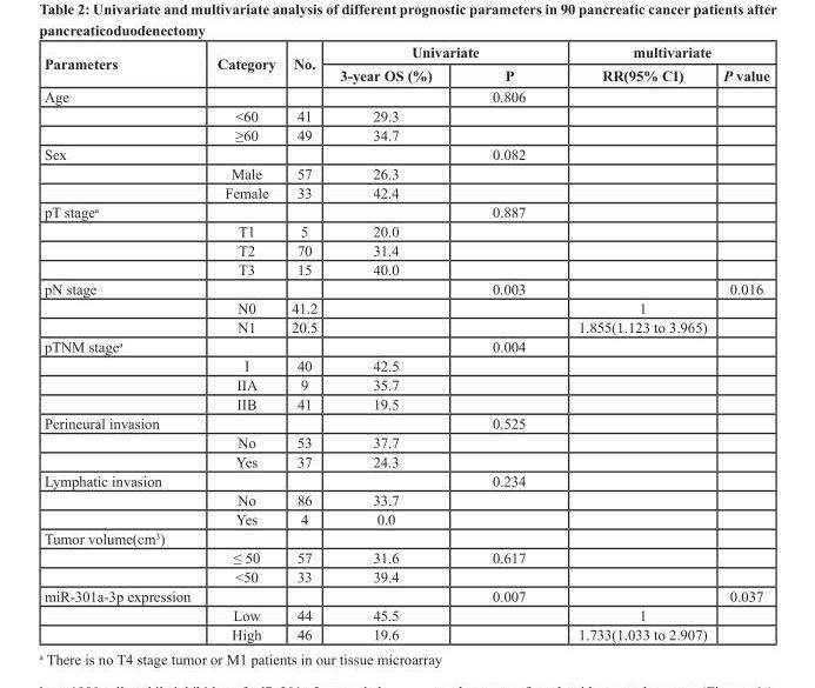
<table><thead><tr><td rowspan="2">Parameters</td><td rowspan="2">Category</td><td rowspan="2">No.</td><td colspan="2">Univariate</td><td colspan="2">multivariate</td></tr><tr><td>3-year OS (%)</td><td>P</td><td>RR(95% CI)</td><td>P value</td></tr></thead><tbody><tr><td rowspan="3">Age</td><td></td><td></td><td></td><td>0.806</td><td></td><td></td></tr><tr><td>&lt;60</td><td>41</td><td>29.3</td><td></td><td></td><td></td></tr><tr><td>≥60</td><td>49</td><td>34.7</td><td></td><td></td><td></td></tr><tr><td rowspan="3">Sex</td><td></td><td></td><td></td><td>0.082</td><td></td><td></td></tr><tr><td>Male</td><td>57</td><td>26.3</td><td></td><td></td><td></td></tr><tr><td>Female</td><td>33</td><td>42.4</td><td></td><td></td><td></td></tr><tr><td rowspan="4">pT stage<sup>a</sup></td><td></td><td></td><td></td><td>0.887</td><td></td><td></td></tr><tr><td>T1</td><td>5</td><td>20.0</td><td></td><td></td><td></td></tr><tr><td>T2</td><td>70</td><td>31.4</td><td></td><td></td><td></td></tr><tr><td>T3</td><td>15</td><td>40.0</td><td></td><td></td><td></td></tr><tr><td rowspan="3">pN stage</td><td></td><td></td><td></td><td>0.003</td><td></td><td>0.016</td></tr><tr><td>N0</td><td>41.2</td><td></td><td></td><td>1</td><td></td></tr><tr><td>N1</td><td>20.5</td><td></td><td></td><td>1.855(1.123 to 3.965)</td><td></td></tr><tr><td rowspan="4">pTNM stage<sup>a</sup></td><td></td><td></td><td></td><td>0.004</td><td></td><td></td></tr><tr><td>I</td><td>40</td><td>42.5</td><td></td><td></td><td></td></tr><tr><td>IIA</td><td>9</td><td>35.7</td><td></td><td></td><td></td></tr><tr><td>IIB</td><td>41</td><td>19.5</td><td></td><td></td><td></td></tr><tr><td rowspan="3">Perineural invasion</td><td></td><td></td><td></td><td>0.525</td><td></td><td></td></tr><tr><td>No</td><td>53</td><td>37.7</td><td></td><td></td><td></td></tr><tr><td>Yes</td><td>37</td><td>24.3</td><td></td><td></td><td></td></tr><tr><td rowspan="3">Lymphatic invasion</td><td></td><td></td><td></td><td>0.234</td><td></td><td></td></tr><tr><td>No</td><td>86</td><td>33.7</td><td></td><td></td><td></td></tr><tr><td>Yes</td><td>4</td><td>0.0</td><td></td><td></td><td></td></tr><tr><td colspan="7">Tumor volume(cm<sup>3</sup>)</td></tr><tr><td></td><td>≤ 50</td><td>57</td><td>31.6</td><td>0.617</td><td></td><td></td></tr><tr><td></td><td>&lt;50</td><td>33</td><td>39.4</td><td></td><td></td><td></td></tr><tr><td rowspan="3">miR-301a-3p expression</td><td></td><td></td><td></td><td>0.007</td><td></td><td>0.037</td></tr><tr><td>Low</td><td>44</td><td>45.5</td><td></td><td>1</td><td></td></tr><tr><td>High</td><td>46</td><td>19.6</td><td></td><td>1.733(1.033 to 2.907)</td><td></td></tr></tbody></table>